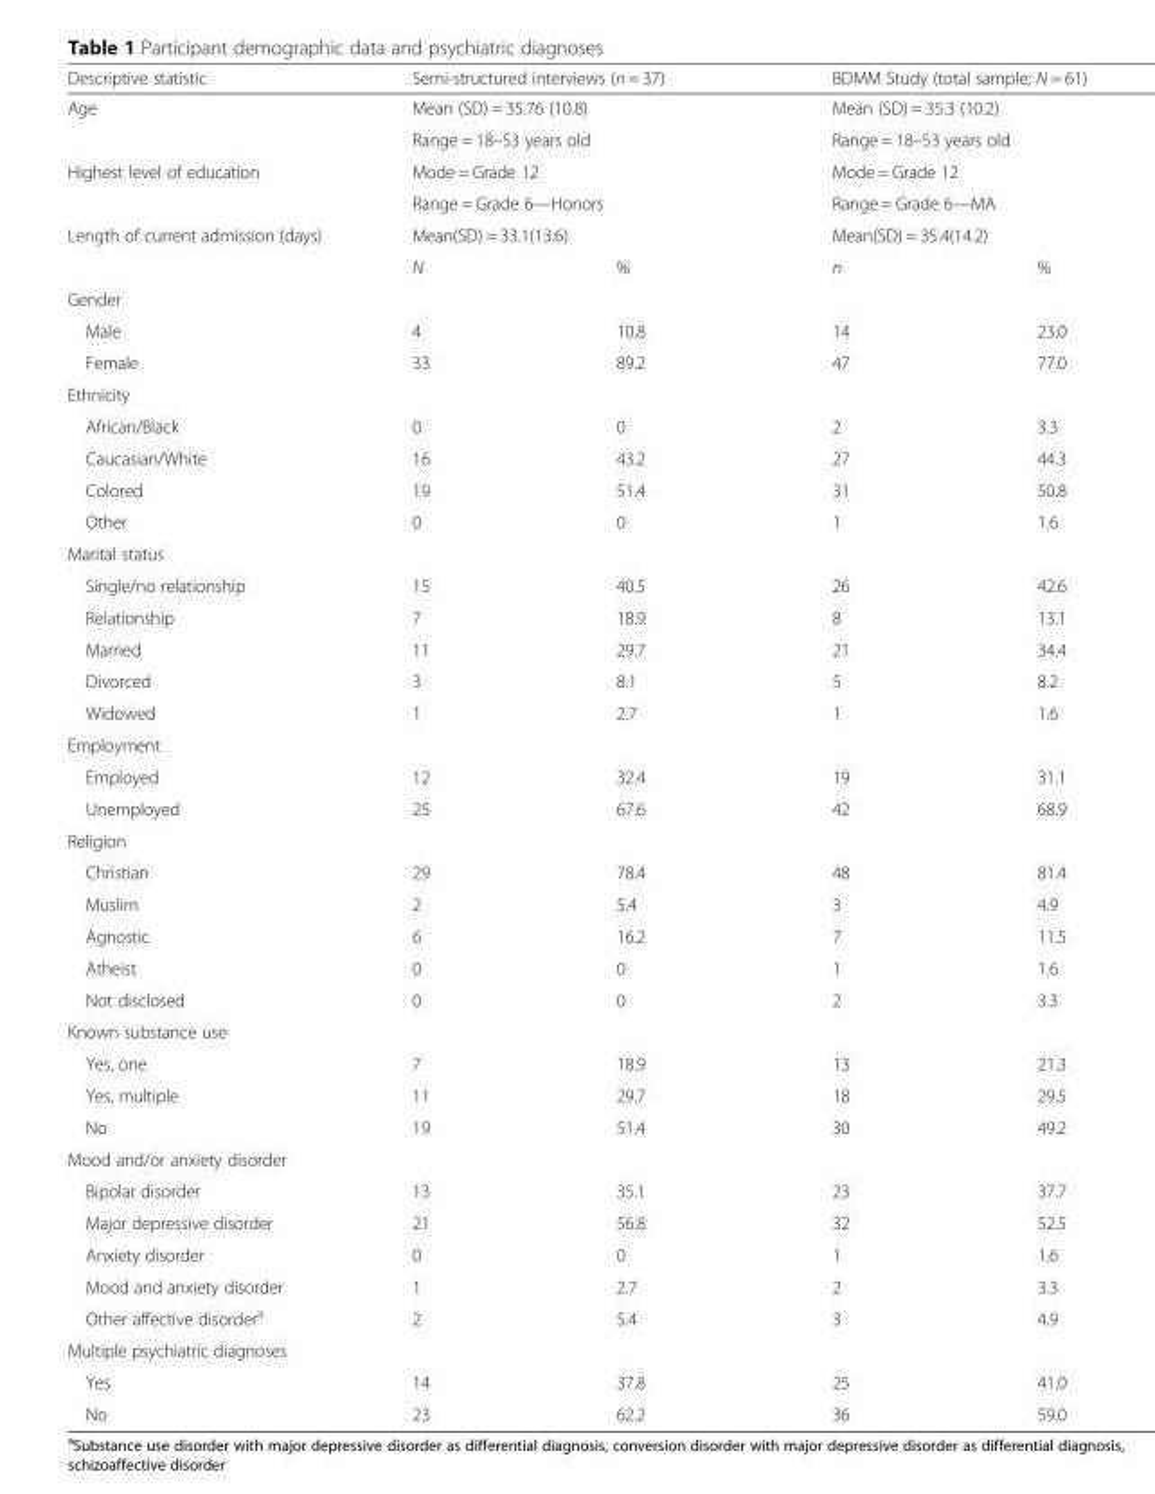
<table><thead><tr><td>Descriptive statistic</td><td colspan="2">Semi-structured interviews (n = 37)</td><td colspan="2">BDMM Study (total sample; N = 61)</td></tr></thead><tbody><tr><td rowspan="2">Age</td><td colspan="2">Mean (SD) = 35.76 (10.8)</td><td colspan="2">Mean (SD) = 35.3 (10.2)</td></tr><tr><td colspan="2">Range = 18–53 years old</td><td colspan="2">Range = 18–53 years old</td></tr><tr><td rowspan="2">Highest level of education</td><td colspan="2">Mode = Grade 12</td><td colspan="2">Mode = Grade 12</td></tr><tr><td colspan="2">Range = Grade 6—Honors</td><td colspan="2">Range = Grade 6—MA</td></tr><tr><td rowspan="2">Length of current admission (days)</td><td colspan="2">Mean(SD) = 33.1(13.6)</td><td colspan="2">Mean(SD) = 35.4(14.2)</td></tr><tr><td>N</td><td>%</td><td>n</td><td>%</td></tr><tr><td colspan="5">Gender</td></tr><tr><td>Male</td><td>4</td><td>10.8</td><td>14</td><td>23.0</td></tr><tr><td>Female</td><td>33</td><td>89.2</td><td>47</td><td>77.0</td></tr><tr><td colspan="5">Ethnicity</td></tr><tr><td>African/Black</td><td>0</td><td>0</td><td>2</td><td>3.3</td></tr><tr><td>Caucasian/White</td><td>16</td><td>43.2</td><td>27</td><td>44.3</td></tr><tr><td>Colored</td><td>19</td><td>51.4</td><td>31</td><td>50.8</td></tr><tr><td>Other</td><td>0</td><td>0</td><td>1</td><td>1.6</td></tr><tr><td colspan="5">Marital status</td></tr><tr><td>Single/no relationship</td><td>15</td><td>40.5</td><td>26</td><td>42.6</td></tr><tr><td>Relationship</td><td>7</td><td>18.9</td><td>8</td><td>13.1</td></tr><tr><td>Married</td><td>11</td><td>29.7</td><td>21</td><td>34.4</td></tr><tr><td>Divorced</td><td>3</td><td>8.1</td><td>5</td><td>8.2</td></tr><tr><td>Widowed</td><td>1</td><td>2.7</td><td>1</td><td>1.6</td></tr><tr><td colspan="5">Employment</td></tr><tr><td>Employed</td><td>12</td><td>32.4</td><td>19</td><td>31.1</td></tr><tr><td>Unemployed</td><td>25</td><td>67.6</td><td>42</td><td>68.9</td></tr><tr><td colspan="5">Religion</td></tr><tr><td>Christian</td><td>29</td><td>78.4</td><td>48</td><td>81.4</td></tr><tr><td>Muslim</td><td>2</td><td>5.4</td><td>3</td><td>4.9</td></tr><tr><td>Agnostic</td><td>6</td><td>16.2</td><td>7</td><td>11.5</td></tr><tr><td>Atheist</td><td>0</td><td>0</td><td>1</td><td>1.6</td></tr><tr><td>Not disclosed</td><td>0</td><td>0</td><td>2</td><td>3.3</td></tr><tr><td colspan="5">Known substance use</td></tr><tr><td>Yes, one</td><td>7</td><td>18.9</td><td>13</td><td>21.3</td></tr><tr><td>Yes, multiple</td><td>11</td><td>29.7</td><td>18</td><td>29.5</td></tr><tr><td>No</td><td>19</td><td>51.4</td><td>30</td><td>49.2</td></tr><tr><td colspan="5">Mood and/or anxiety disorder</td></tr><tr><td>Bipolar disorder</td><td>13</td><td>35.1</td><td>23</td><td>37.7</td></tr><tr><td>Major depressive disorder</td><td>21</td><td>56.8</td><td>32</td><td>52.5</td></tr><tr><td>Anxiety disorder</td><td>0</td><td>0</td><td>1</td><td>1.6</td></tr><tr><td>Mood and anxiety disorder</td><td>1</td><td>2.7</td><td>2</td><td>3.3</td></tr><tr><td>Other affective disorder<sup>a</sup></td><td>2</td><td>5.4</td><td>3</td><td>4.9</td></tr><tr><td colspan="5">Multiple psychiatric diagnoses</td></tr><tr><td>Yes</td><td>14</td><td>37.8</td><td>25</td><td>41.0</td></tr><tr><td>No</td><td>23</td><td>62.2</td><td>36</td><td>59.0</td></tr></tbody></table>